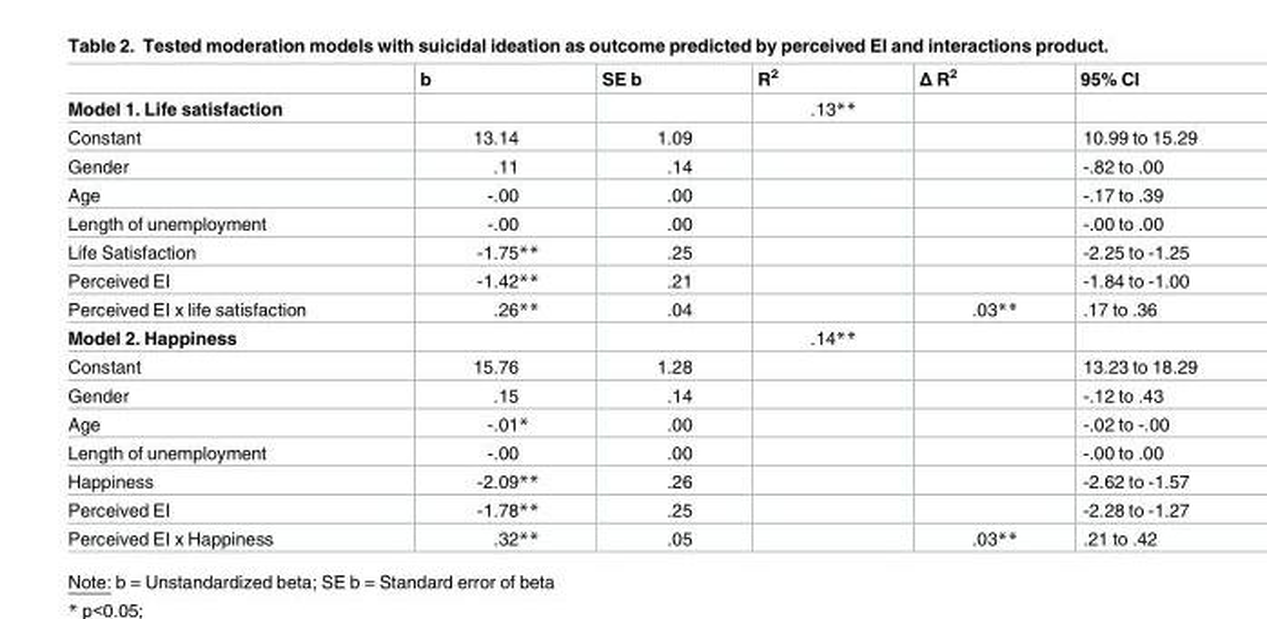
<table><thead><tr><td></td><td>b</td><td>SE b</td><td>R<sup>2</sup></td><td>Δ R<sup>2</sup></td><td>95% CI</td></tr></thead><tbody><tr><td>Model 1. Life satisfaction</td><td></td><td></td><td>.13**</td><td></td><td></td></tr><tr><td>Constant</td><td>13.14</td><td>1.09</td><td></td><td></td><td>10.99 to 15.29</td></tr><tr><td>Gender</td><td>.11</td><td>.14</td><td></td><td></td><td>-.82 to .00</td></tr><tr><td>Age</td><td>-.00</td><td>.00</td><td></td><td></td><td>-.17 to .39</td></tr><tr><td>Length of unemployment</td><td>-.00</td><td>.00</td><td></td><td></td><td>-.00 to .00</td></tr><tr><td>Life Satisfaction</td><td>-1.75**</td><td>.25</td><td></td><td></td><td>-2.25 to -1.25</td></tr><tr><td>Perceived EI</td><td>-1.42**</td><td>.21</td><td></td><td></td><td>-1.84 to -1.00</td></tr><tr><td>Perceived EI x life satisfaction</td><td>.26**</td><td>.04</td><td></td><td>.03**</td><td>.17 to .36</td></tr><tr><td>Model 2. Happiness</td><td></td><td></td><td>.14**</td><td></td><td></td></tr><tr><td>Constant</td><td>15.76</td><td>1.28</td><td></td><td></td><td>13.23 to 18.29</td></tr><tr><td>Gender</td><td>.15</td><td>.14</td><td></td><td></td><td>-.12 to .43</td></tr><tr><td>Age</td><td>-.01*</td><td>.00</td><td></td><td></td><td>-.02 to -.00</td></tr><tr><td>Length of unemployment</td><td>-.00</td><td>.00</td><td></td><td></td><td>-.00 to .00</td></tr><tr><td>Happiness</td><td>-2.09**</td><td>.26</td><td></td><td></td><td>-2.62 to -1.57</td></tr><tr><td>Perceived EI</td><td>-1.78**</td><td>.25</td><td></td><td></td><td>-2.28 to -1.27</td></tr><tr><td>Perceived EI x Happiness</td><td>.32**</td><td>.05</td><td></td><td>.03**</td><td>.21 to .42</td></tr></tbody></table>